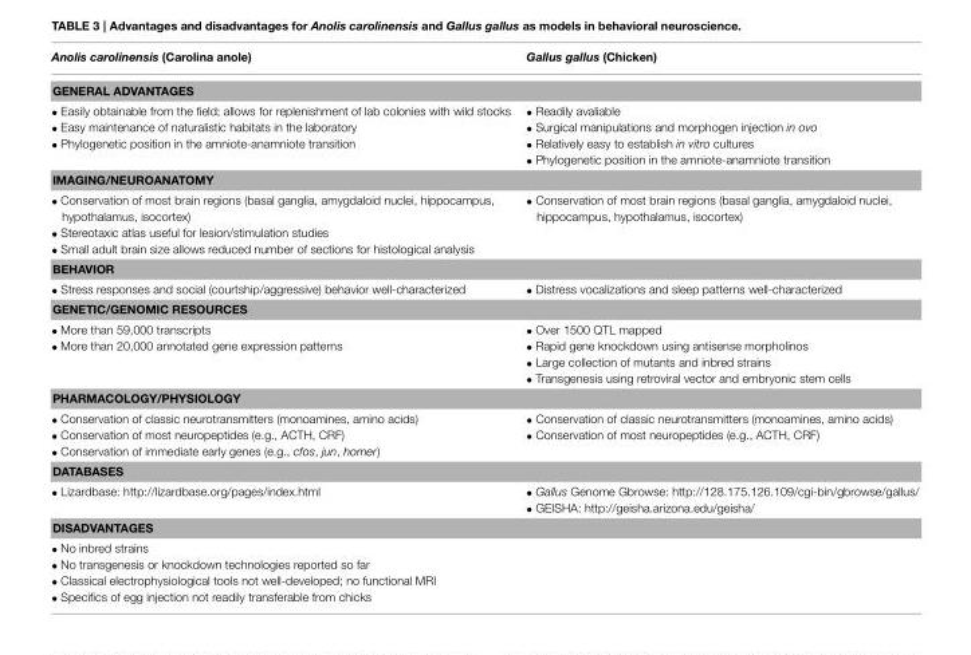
<table><thead><tr><td>Anolis carolinensis (Carolina anole)</td><td>Gallus gallus (Chicken)</td></tr></thead><tbody><tr><td colspan="2">GENERAL ADVANTAGES</td></tr><tr><td>• Easily obtainable from the field; allows for replenishment of lab colonies with wild stocks • Easy maintenance of naturalistic habitats in the laboratory • Phylogenetic position in the amniote-anamniote transition</td><td>• Readily avaliable • Surgical manipulations and morphogen injection in ovo • Relatively easy to establish in vitro cultures • Phylogenetic position in the amniote-anamniote transition</td></tr><tr><td colspan="2">IMAGING/NEUROANATOMY</td></tr><tr><td>• Conservation of most brain regions (basal ganglia, amygdaloid nuclei, hippocampus, hypothalamus, isocortex) • Stereotaxic atlas useful for lesion/stimulation studies • Small adult brain size allows reduced number of sections for histological analysis</td><td>• Conservation of most brain regions (basal ganglia, amygdaloid nuclei, hippocampus, hypothalamus, isocortex)</td></tr><tr><td colspan="2">BEHAVIOR</td></tr><tr><td>• Stress responses and social (courtship/aggressive) behavior well-characterized</td><td>• Distress vocalizations and sleep patterns well-characterized</td></tr><tr><td colspan="2">GENETIC/GENOMIC RESOURCES</td></tr><tr><td>• More than 59,000 transcripts • More than 20,000 annotated gene expression patterns</td><td>• Over 1500 QTL mapped • Rapid gene knockdown using antisense morpholinos • Large collection of mutants and inbred strains • Transgenesis using retroviral vector and embryonic stem cells</td></tr><tr><td colspan="2">PHARMACOLOGY/PHYSIOLOGY</td></tr><tr><td>• Conservation of classic neurotransmitters (monoamines, amino acids) • Conservation of most neuropeptides (e.g., ACTH, CRF) • Conservation of immediate early genes (e.g., cfos, jun, homer)</td><td>• Conservation of classic neurotransmitters (monoamines, amino acids) • Conservation of most neuropeptides (e.g., ACTH, CRF)</td></tr><tr><td colspan="2">DATABASES</td></tr><tr><td>• Lizardbase: http://lizardbase.org/pages/index.html</td><td>• Gallus Genome Gbrowse: http://128.175.126.109/cgi-bin/gbrowse/gallus/ • GEISHA: http://geisha.arizona.edu/geisha/</td></tr><tr><td colspan="2">DISADVANTAGES</td></tr><tr><td>• No inbred strains • No transgenesis or knockdown technologies reported so far • Classical electrophysiological tools not well-developed; no functional MRI • Specifics of egg injection not readily transferable from chicks</td><td></td></tr></tbody></table>